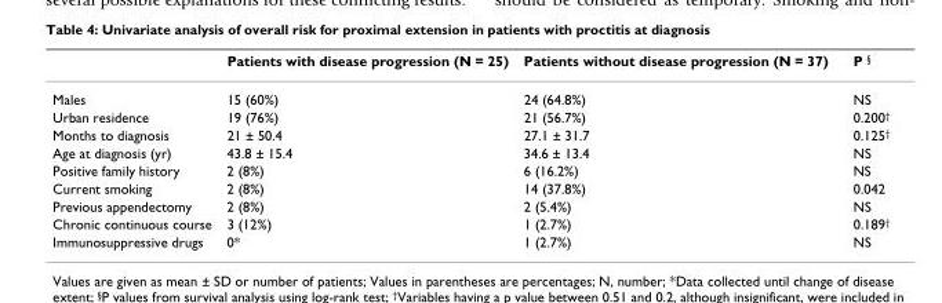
<table><thead><tr><td></td><td>Patients with disease progression (N = 25)</td><td>Patients without disease progression (N = 37)</td><td>P §</td></tr></thead><tbody><tr><td>Males</td><td>15 (60%)</td><td>24 (64.8%)</td><td>NS</td></tr><tr><td>Urban residence</td><td>19 (76%)</td><td>21 (56.7%)</td><td>0.200†</td></tr><tr><td>Months to diagnosis</td><td>21 ± 50.4</td><td>27.1 ± 31.7</td><td>0.125†</td></tr><tr><td>Age at diagnosis (yr)</td><td>43.8 ± 15.4</td><td>34.6 ± 13.4</td><td>NS</td></tr><tr><td>Positive family history</td><td>2 (8%)</td><td>6 (16.2%)</td><td>NS</td></tr><tr><td>Current smoking</td><td>2 (8%)</td><td>14 (37.8%)</td><td>0.042</td></tr><tr><td>Previous appendectomy</td><td>2 (8%)</td><td>2 (5.4%)</td><td>NS</td></tr><tr><td>Chronic continuous course</td><td>3 (12%)</td><td>1 (2.7%)</td><td>0.189†</td></tr><tr><td>Immunosuppressive drugs</td><td>0*</td><td>1 (2.7%)</td><td>NS</td></tr></tbody></table>